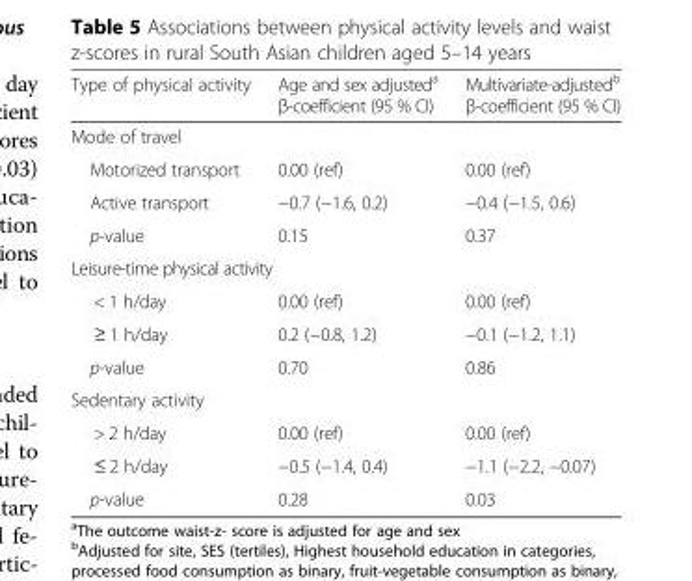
<table><thead><tr><td>Type of physical activity</td><td>Age and sex adjusted<sup>a</sup> β-coefficient (95 % CI)</td><td>Multivariate-adjusted<sup>b</sup> β-coefficient (95 % CI)</td></tr></thead><tbody><tr><td colspan="3">Mode of travel</td></tr><tr><td>Motorized transport</td><td>0.00 (ref)</td><td>0.00 (ref)</td></tr><tr><td>Active transport</td><td>−0.7 (−1.6, 0.2)</td><td>−0.4 (−1.5, 0.6)</td></tr><tr><td>p-value</td><td>0.15</td><td>0.37</td></tr><tr><td colspan="3">Leisure-time physical activity</td></tr><tr><td>&lt; 1 h/day</td><td>0.00 (ref)</td><td>0.00 (ref)</td></tr><tr><td>≥ 1 h/day</td><td>0.2 (−0.8, 1.2)</td><td>−0.1 (−1.2, 1.1)</td></tr><tr><td>p-value</td><td>0.70</td><td>0.86</td></tr><tr><td colspan="3">Sedentary activity</td></tr><tr><td>&gt; 2 h/day</td><td>0.00 (ref)</td><td>0.00 (ref)</td></tr><tr><td>≤ 2 h/day</td><td>−0.5 (−1.4, 0.4)</td><td>−1.1 (−2.2, −0.07)</td></tr><tr><td>p-value</td><td>0.28</td><td>0.03</td></tr></tbody></table>